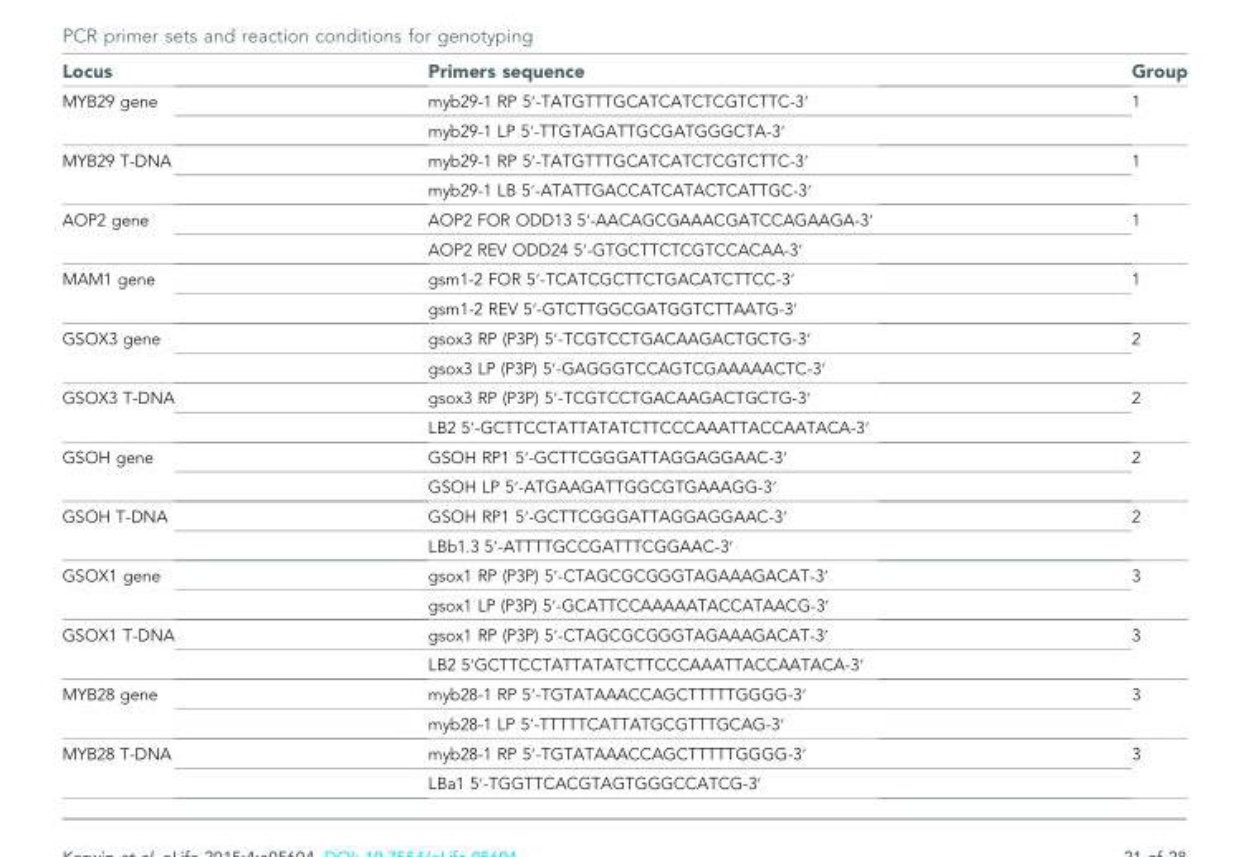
<table><thead><tr><td>Locus</td><td>Primers sequence</td><td>Group</td></tr></thead><tbody><tr><td rowspan="2">MYB29 gene</td><td>myb29-1 RP 5′-TATGTTTGCATCATCTCGTCTTC-3′</td><td rowspan="2">1</td></tr><tr><td>myb29-1 LP 5′-TTGTAGATTGCGATGGGCTA-3′</td></tr><tr><td rowspan="2">MYB29 T-DNA</td><td>myb29-1 RP 5′-TATGTTTGCATCATCTCGTCTTC-3′</td><td rowspan="2">1</td></tr><tr><td>myb29-1 LB 5′-ATATTGACCATCATACTCATTGC-3′</td></tr><tr><td rowspan="2">AOP2 gene</td><td>AOP2 FOR ODD13 5′-AACAGCGAAACGATCCAGAAGA-3′</td><td rowspan="2">1</td></tr><tr><td>AOP2 REV ODD24 5′-GTGCTTCTCGTCCACAA-3′</td></tr><tr><td rowspan="2">MAM1 gene</td><td>gsm1-2 FOR 5′-TCATCGCTTCTGACATCTTCC-3′</td><td rowspan="2">1</td></tr><tr><td>gsm1-2 REV 5′-GTCTTGGCGATGGTCTTAATG-3′</td></tr><tr><td rowspan="2">GSOX3 gene</td><td>gsox3 RP (P3P) 5′-TCGTCCTGACAAGACTGCTG-3′</td><td rowspan="2">2</td></tr><tr><td>gsox3 LP (P3P) 5′-GAGGGTCCAGTCGAAAAACTC-3′</td></tr><tr><td rowspan="2">GSOX3 T-DNA</td><td>gsox3 RP (P3P) 5′-TCGTCCTGACAAGACTGCTG-3′</td><td rowspan="2">2</td></tr><tr><td>LB2 5′-GCTTCCTATTATATCTTCCCAAATTACCAATACA-3′</td></tr><tr><td rowspan="2">GSOH gene</td><td>GSOH RP1 5′-GCTTCGGGATTAGGAGGAAC-3′</td><td rowspan="2">2</td></tr><tr><td>GSOH LP 5′-ATGAAGATTGGCGTGAAAGG-3′</td></tr><tr><td rowspan="2">GSOH T-DNA</td><td>GSOH RP1 5′-GCTTCGGGATTAGGAGGAAC-3′</td><td rowspan="2">2</td></tr><tr><td>LBb1.3 5′-ATTTTGCCGATTTCGGAAC-3′</td></tr><tr><td rowspan="2">GSOX1 gene</td><td>gsox1 RP (P3P) 5′-CTAGCGCGGGTAGAAAGACAT-3′</td><td rowspan="2">3</td></tr><tr><td>gsox1 LP (P3P) 5′-GCATTCCAAAAATACCATAACG-3′</td></tr><tr><td rowspan="2">GSOX1 T-DNA</td><td>gsox1 RP (P3P) 5′-CTAGCGCGGGTAGAAAGACAT-3′</td><td rowspan="2">3</td></tr><tr><td>LB2 5′GCTTCCTATTATATCTTCCCAAATTACCAATACA-3′</td></tr><tr><td rowspan="2">MYB28 gene</td><td>myb28-1 RP 5′-TGTATAAACCAGCTTTTTGGGG-3′</td><td rowspan="2">3</td></tr><tr><td>myb28-1 LP 5′-TTTTTCATTATGCGTTTGCAG-3′</td></tr><tr><td rowspan="2">MYB28 T-DNA</td><td>myb28-1 RP 5′-TGTATAAACCAGCTTTTTGGGG-3′</td><td rowspan="2">3</td></tr><tr><td>LBa1 5′-TGGTTCACGTAGTGGGCCATCG-3′</td></tr></tbody></table>